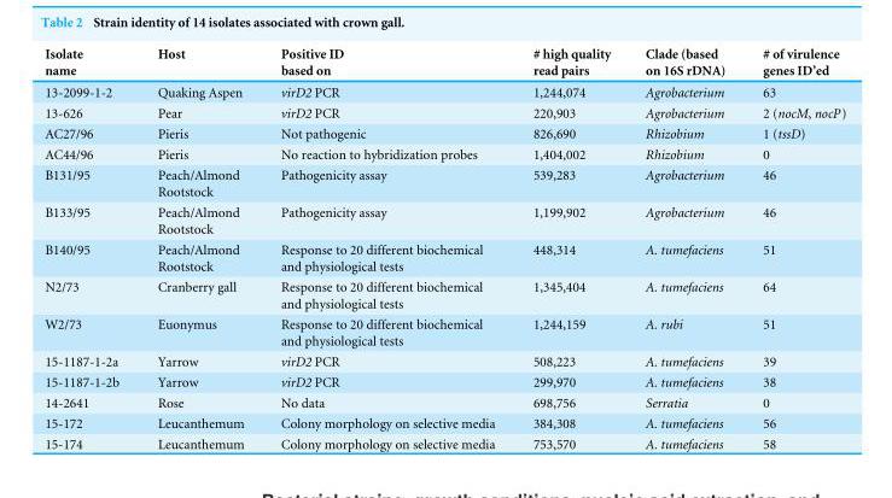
<table><thead><tr><td>Isolate name</td><td>Host</td><td>Positive ID based on</td><td># high quality read pairs</td><td>Clade (based on 16S rDNA)</td><td># of virulence genes ID’ed</td></tr></thead><tbody><tr><td>13-2099-1-2</td><td>Quaking Aspen</td><td>virD2 PCR</td><td>1,244,074</td><td>Agrobacterium</td><td>63</td></tr><tr><td>13-626</td><td>Pear</td><td>virD2 PCR</td><td>220,903</td><td>Agrobacterium</td><td>2 (nocM, nocP)</td></tr><tr><td>AC27/96</td><td>Pieris</td><td>Not pathogenic</td><td>826,690</td><td>Rhizobium</td><td>1 (tssD)</td></tr><tr><td>AC44/96</td><td>Pieris</td><td>No reaction to hybridization probes</td><td>1,404,002</td><td>Rhizobium</td><td>0</td></tr><tr><td>B131/95</td><td>Peach/Almond Rootstock</td><td>Pathogenicity assay</td><td>539,283</td><td>Agrobacterium</td><td>46</td></tr><tr><td>B133/95</td><td>Peach/Almond Rootstock</td><td>Pathogenicity assay</td><td>1,199,902</td><td>Agrobacterium</td><td>46</td></tr><tr><td>B140/95</td><td>Peach/Almond Rootstock</td><td>Response to 20 different biochemical and physiological tests</td><td>448,314</td><td>A. tumefaciens</td><td>51</td></tr><tr><td>N2/73</td><td>Cranberry gall</td><td>Response to 20 different biochemical and physiological tests</td><td>1,345,404</td><td>A. tumefaciens</td><td>64</td></tr><tr><td>W2/73</td><td>Euonymus</td><td>Response to 20 different biochemical and physiological tests</td><td>1,244,159</td><td>A. rubi</td><td>51</td></tr><tr><td>15-1187-1-2a</td><td>Yarrow</td><td>virD2 PCR</td><td>508,223</td><td>A. tumefaciens</td><td>39</td></tr><tr><td>15-1187-1-2b</td><td>Yarrow</td><td>virD2 PCR</td><td>299,970</td><td>A. tumefaciens</td><td>38</td></tr><tr><td>14-2641</td><td>Rose</td><td>No data</td><td>698,756</td><td>Serratia</td><td>0</td></tr><tr><td>15-172</td><td>Leucanthemum</td><td>Colony morphology on selective media</td><td>384,308</td><td>A. tumefaciens</td><td>56</td></tr><tr><td>15-174</td><td>Leucanthemum</td><td>Colony morphology on selective media</td><td>753,570</td><td>A. tumefaciens</td><td>58</td></tr></tbody></table>